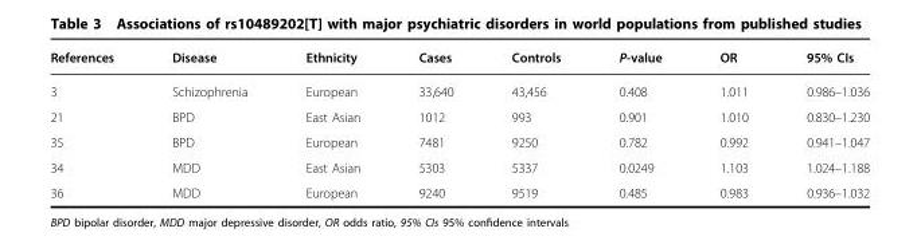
<table><thead><tr><td>References</td><td>Disease</td><td>Ethnicity</td><td>Cases</td><td>Controls</td><td>P-value</td><td>OR</td><td>95% CIs</td></tr></thead><tbody><tr><td>3</td><td>Schizophrenia</td><td>European</td><td>33,640</td><td>43,456</td><td>0.408</td><td>1.011</td><td>0.986–1.036</td></tr><tr><td>21</td><td>BPD</td><td>East Asian</td><td>1012</td><td>993</td><td>0.901</td><td>1.010</td><td>0.830–1.230</td></tr><tr><td>35</td><td>BPD</td><td>European</td><td>7481</td><td>9250</td><td>0.782</td><td>0.992</td><td>0.941–1.047</td></tr><tr><td>34</td><td>MDD</td><td>East Asian</td><td>5303</td><td>5337</td><td>0.0249</td><td>1.103</td><td>1.024–1.188</td></tr><tr><td>36</td><td>MDD</td><td>European</td><td>9240</td><td>9519</td><td>0.485</td><td>0.983</td><td>0.936–1.032</td></tr></tbody></table>